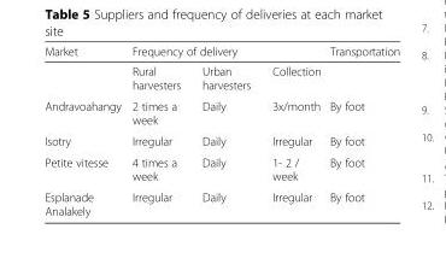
<table><thead><tr><td rowspan="2">Market</td><td colspan="3">Frequency of delivery</td><td rowspan="2">Transportation</td></tr><tr><td>Rural harvesters</td><td>Urban harvesters</td><td>Collection</td></tr></thead><tbody><tr><td>Andravoahangy</td><td>2 times a week</td><td>Daily</td><td>3x/month</td><td>By foot</td></tr><tr><td>Isotry</td><td>Irregular</td><td>Daily</td><td>Irregular</td><td>By foot</td></tr><tr><td>Petite vitesse</td><td>4 times a week</td><td>Daily</td><td>1- 2 / week</td><td>By foot</td></tr><tr><td>Esplanade Analakely</td><td>Irregular</td><td>Daily</td><td>Irregular</td><td>By foot</td></tr></tbody></table>